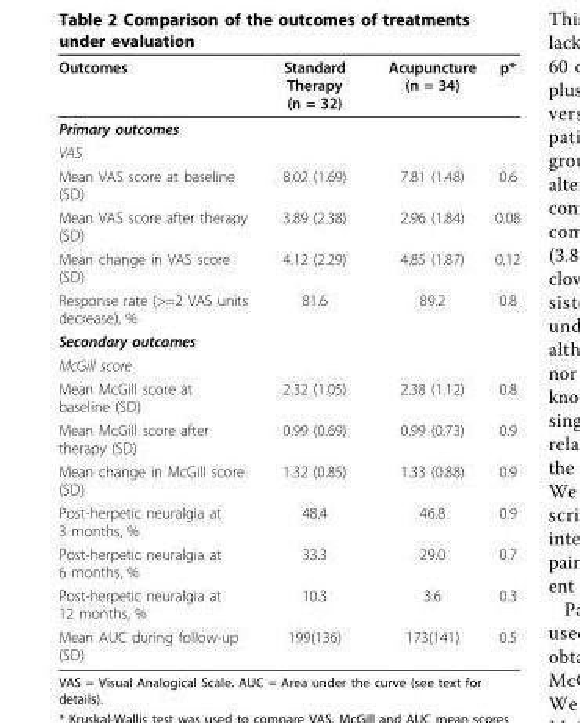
<table><thead><tr><td>Outcomes</td><td>Standard Therapy (n = 32)</td><td>Acupuncture (n = 34)</td><td>p*</td></tr></thead><tbody><tr><td colspan="4">Primary outcomes</td></tr><tr><td colspan="4">VAS</td></tr><tr><td>Mean VAS score at baseline (SD)</td><td>8.02 (1.69)</td><td>7.81 (1.48)</td><td>0.6</td></tr><tr><td>Mean VAS score after therapy (SD)</td><td>3.89 (2.38)</td><td>2.96 (1.84)</td><td>0.08</td></tr><tr><td>Mean change in VAS score (SD)</td><td>4.12 (2.29)</td><td>4.85 (1.87)</td><td>0.12</td></tr><tr><td>Response rate (&gt;=2 VAS units decrease), %</td><td>81.6</td><td>89.2</td><td>0.8</td></tr><tr><td colspan="4">Secondary outcomes</td></tr><tr><td colspan="4">McGill score</td></tr><tr><td>Mean McGill score at baseline (SD)</td><td>2.32 (1.05)</td><td>2.38 (1.12)</td><td>0.8</td></tr><tr><td>Mean McGill score after therapy (SD)</td><td>0.99 (0.69)</td><td>0.99 (0.73)</td><td>0.9</td></tr><tr><td>Mean change in McGill score (SD)</td><td>1.32 (0.85)</td><td>1.33 (0.88)</td><td>0.9</td></tr><tr><td>Post-herpetic neuralgia at 3 months, %</td><td>48.4</td><td>46.8</td><td>0.9</td></tr><tr><td>Post-herpetic neuralgia at 6 months, %</td><td>33.3</td><td>29.0</td><td>0.7</td></tr><tr><td>Post-herpetic neuralgia at 12 months, %</td><td>10.3</td><td>3.6</td><td>0.3</td></tr><tr><td>Mean AUC during follow-up (SD)</td><td>199(136)</td><td>173(141)</td><td>0.5</td></tr></tbody></table>